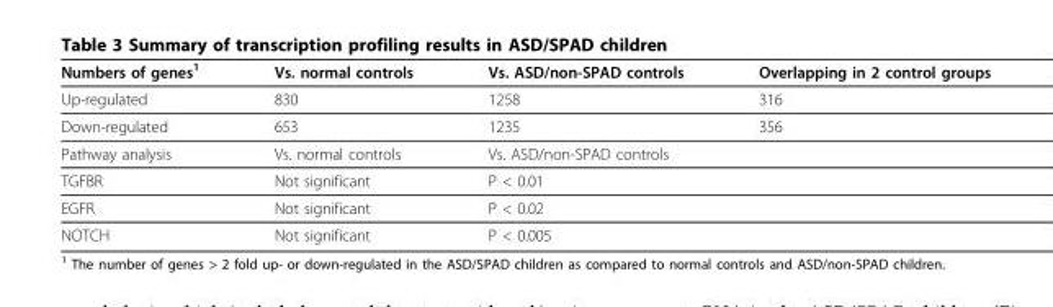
<table><thead><tr><td>Numbers of genes<sup>1</sup></td><td>Vs. normal controls</td><td>Vs. ASD/non-SPAD controls</td><td>Overlapping in 2 control groups</td></tr></thead><tbody><tr><td>Up-regulated</td><td>830</td><td>1258</td><td>316</td></tr><tr><td>Down-regulated</td><td>653</td><td>1235</td><td>356</td></tr><tr><td>Pathway analysis</td><td>Vs. normal controls</td><td>Vs. ASD/non-SPAD controls</td><td></td></tr><tr><td>TGFBR</td><td>Not significant</td><td>P &lt; 0.01</td><td></td></tr><tr><td>EGFR</td><td>Not significant</td><td>P &lt; 0.02</td><td></td></tr><tr><td>NOTCH</td><td>Not significant</td><td>P &lt; 0.005</td><td></td></tr></tbody></table>